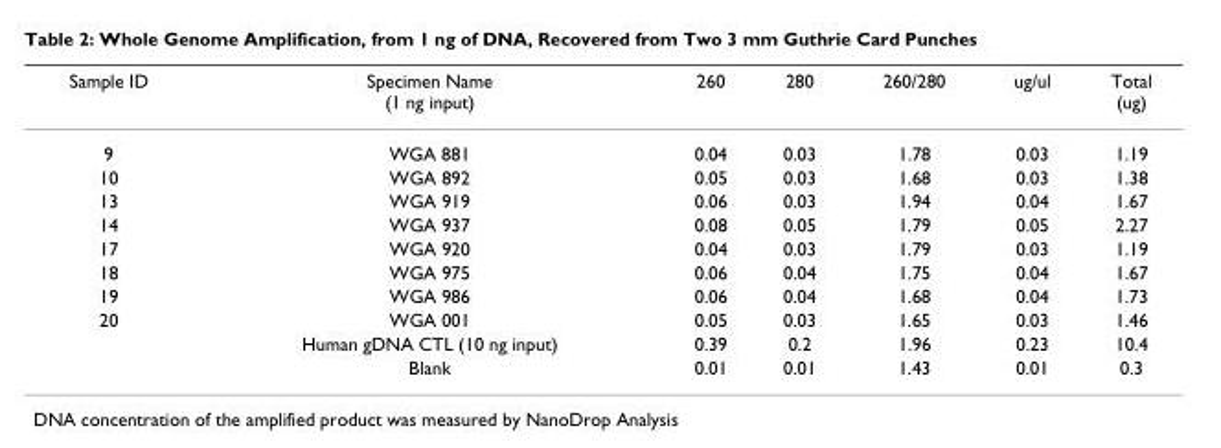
<table><thead><tr><td>Sample ID</td><td>Specimen Name (1 ng input)</td><td>260</td><td>280</td><td>260/280</td><td>ug/ul</td><td>Total (ug)</td></tr></thead><tbody><tr><td>9</td><td>WGA 881</td><td>0.04</td><td>0.03</td><td>1.78</td><td>0.03</td><td>1.19</td></tr><tr><td>10</td><td>WGA 892</td><td>0.05</td><td>0.03</td><td>1.68</td><td>0.03</td><td>1.38</td></tr><tr><td>13</td><td>WGA 919</td><td>0.06</td><td>0.03</td><td>1.94</td><td>0.04</td><td>1.67</td></tr><tr><td>14</td><td>WGA 937</td><td>0.08</td><td>0.05</td><td>1.79</td><td>0.05</td><td>2.27</td></tr><tr><td>17</td><td>WGA 920</td><td>0.04</td><td>0.03</td><td>1.79</td><td>0.03</td><td>1.19</td></tr><tr><td>18</td><td>WGA 975</td><td>0.06</td><td>0.04</td><td>1.75</td><td>0.04</td><td>1.67</td></tr><tr><td>19</td><td>WGA 986</td><td>0.06</td><td>0.04</td><td>1.68</td><td>0.04</td><td>1.73</td></tr><tr><td rowspan="3">20</td><td>WGA 001</td><td>0.05</td><td>0.03</td><td>1.65</td><td>0.03</td><td>1.46</td></tr><tr><td>Human gDNA CTL (10 ng input)</td><td>0.39</td><td>0.2</td><td>1.96</td><td>0.23</td><td>10.4</td></tr><tr><td>Blank</td><td>0.01</td><td>0.01</td><td>1.43</td><td>0.01</td><td>0.3</td></tr></tbody></table>